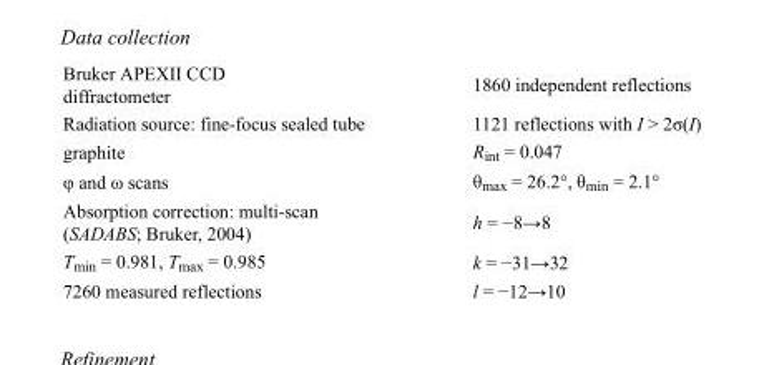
<table><tbody><tr><td>Bruker APEXII CCD diffractometer</td><td>1860 independent reflections</td></tr><tr><td>Radiation source: fine-focus sealed tube</td><td>1121 reflections with I &gt; 2σ(I)</td></tr><tr><td>graphite</td><td>R<sub>int</sub> = 0.047</td></tr><tr><td>φ and ω scans</td><td>θ<sub>max</sub> = 26.2°, θ<sub>min</sub> = 2.1°</td></tr><tr><td>Absorption correction: multi-scan (SADABS; Bruker, 2004)</td><td>h = −8→8</td></tr><tr><td>T<sub>min</sub> = 0.981, T<sub>max</sub> = 0.985</td><td>k = −31→32</td></tr><tr><td>7260 measured reflections</td><td>l = −12→10</td></tr></tbody></table>